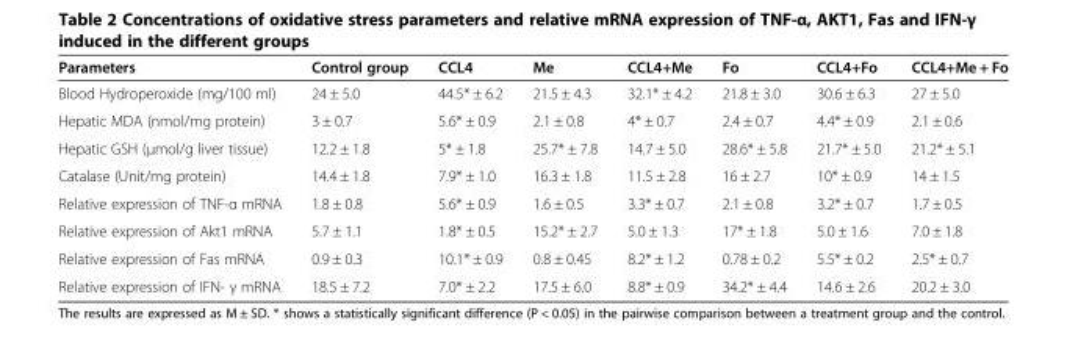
<table><thead><tr><td>Parameters</td><td>Control group</td><td>CCL4</td><td>Me</td><td>CCL4+Me</td><td>Fo</td><td>CCL4+Fo</td><td>CCL4+Me + Fo</td></tr></thead><tbody><tr><td>Blood Hydroperoxide (mg/100 ml)</td><td>24 ± 5.0</td><td>44.5* ± 6.2</td><td>21.5 ± 4.3</td><td>32.1* ± 4.2</td><td>21.8 ± 3.0</td><td>30.6 ± 6.3</td><td>27 ± 5.0</td></tr><tr><td>Hepatic MDA (nmol/mg protein)</td><td>3 ± 0.7</td><td>5.6* ± 0.9</td><td>2.1 ± 0.8</td><td>4* ± 0.7</td><td>2.4 ± 0.7</td><td>4.4* ± 0.9</td><td>2.1 ± 0.6</td></tr><tr><td>Hepatic GSH (μmol/g liver tissue)</td><td>12.2 ± 1.8</td><td>5* ± 1.8</td><td>25.7* ± 7.8</td><td>14.7 ± 5.0</td><td>28.6* ± 5.8</td><td>21.7* ± 5.0</td><td>21.2* ± 5.1</td></tr><tr><td>Catalase (Unit/mg protein)</td><td>14.4 ± 1.8</td><td>7.9* ± 1.0</td><td>16.3 ± 1.8</td><td>11.5 ± 2.8</td><td>16 ± 2.7</td><td>10* ± 0.9</td><td>14 ± 1.5</td></tr><tr><td>Relative expression of TNF-α mRNA</td><td>1.8 ± 0.8</td><td>5.6* ± 0.9</td><td>1.6 ± 0.5</td><td>3.3* ± 0.7</td><td>2.1 ± 0.8</td><td>3.2* ± 0.7</td><td>1.7 ± 0.5</td></tr><tr><td>Relative expression of Akt1 mRNA</td><td>5.7 ± 1.1</td><td>1.8* ± 0.5</td><td>15.2* ± 2.7</td><td>5.0 ± 1.3</td><td>17* ± 1.8</td><td>5.0 ± 1.6</td><td>7.0 ± 1.8</td></tr><tr><td>Relative expression of Fas mRNA</td><td>0.9 ± 0.3</td><td>10.1* ± 0.9</td><td>0.8 ± 0.45</td><td>8.2* ± 1.2</td><td>0.78 ± 0.2</td><td>5.5* ± 0.2</td><td>2.5* ± 0.7</td></tr><tr><td>Relative expression of IFN- γ mRNA</td><td>18.5 ± 7.2</td><td>7.0* ± 2.2</td><td>17.5 ± 6.0</td><td>8.8* ± 0.9</td><td>34.2* ± 4.4</td><td>14.6 ± 2.6</td><td>20.2 ± 3.0</td></tr></tbody></table>